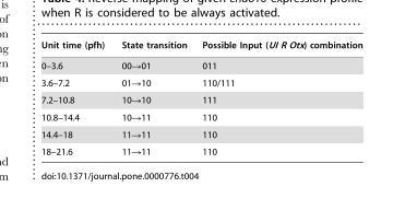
<table><thead><tr><td>Unit time (pfh)</td><td>State transition</td><td>Possible Input (UI R Otx) combination</td></tr></thead><tbody><tr><td>0–3.6</td><td>00→01</td><td>011</td></tr><tr><td>3.6–7.2</td><td>01→10</td><td>110/111</td></tr><tr><td>7.2–10.8</td><td>10→10</td><td>111</td></tr><tr><td>10.8–14.4</td><td>10→11</td><td>110</td></tr><tr><td>14.4–18</td><td>11→11</td><td>110</td></tr><tr><td>18–21.6</td><td>11→11</td><td>110</td></tr></tbody></table>